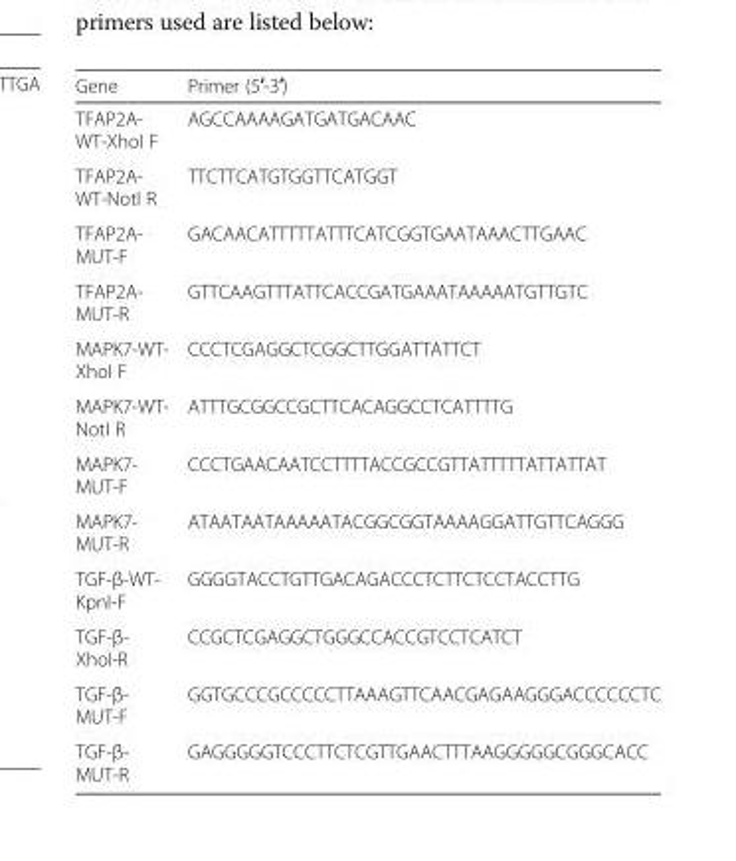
<table><thead><tr><td>Gene</td><td>Primer (5′-3′)</td></tr></thead><tbody><tr><td>TFAP2A- WT-XhoI F</td><td>AGCCAAAAGATGATGACAAC</td></tr><tr><td>TFAP2A- WT-NotI R</td><td>TTCTTCATGTGGTTCATGGT</td></tr><tr><td>TFAP2A- MUT-F</td><td>GACAACATTTTTATTTCATCGGTGAATAAACTTGAAC</td></tr><tr><td>TFAP2A- MUT-R</td><td>GTTCAAGTTTATTCACCGATGAAATAAAAATGTTGTC</td></tr><tr><td>MAPK7-WT- XhoI F</td><td>CCCTCGAGGCTCGGCTTGGATTATTCT</td></tr><tr><td>MAPK7-WT- NotI R</td><td>ATTTGCGGCCGCTTCACAGGCCTCATTTTG</td></tr><tr><td>MAPK7- MUT-F</td><td>CCCTGAACAATCCTTTTACCGCCGTTATTTTTATTATTAT</td></tr><tr><td>MAPK7- MUT-R</td><td>ATAATAATAAAAATACGGCGGTAAAAGGATTGTTCAGGG</td></tr><tr><td>TGF-β-WT- KpnI-F</td><td>GGGGTACCTGTTGACAGACCCTCTTCTCCTACCTTG</td></tr><tr><td>TGF-β- XhoI-R</td><td>CCGCTCGAGGCTGGGCCACCGTCCTCATCT</td></tr><tr><td>TGF-β- MUT-F</td><td>GGTGCCCGCCCCCTTAAAGTTCAACGAGAAGGGACCCCCCTC</td></tr><tr><td>TGF-β- MUT-R</td><td>GAGGGGGTCCCTTCTCGTTGAACTTTAAGGGGGCGGGCACC</td></tr></tbody></table>